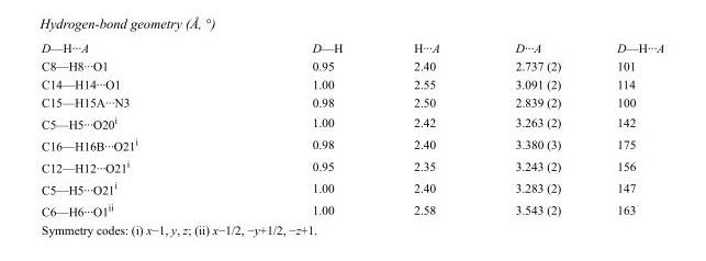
<table><tbody><tr><td>D—H···A</td><td>D—H</td><td>H···A</td><td>D···A</td><td>D—H···A</td></tr><tr><td>C8—H8···O1</td><td>0.95</td><td>2.40</td><td>2.737 (2)</td><td>101</td></tr><tr><td>C14—H14···O1</td><td>1.00</td><td>2.55</td><td>3.091 (2)</td><td>114</td></tr><tr><td>C15—H15A···N3</td><td>0.98</td><td>2.50</td><td>2.839 (2)</td><td>100</td></tr><tr><td>C5—H5···O20<sup>i</sup></td><td>1.00</td><td>2.42</td><td>3.263 (2)</td><td>142</td></tr><tr><td>C16—H16B···O21<sup>i</sup></td><td>0.98</td><td>2.40</td><td>3.380 (3)</td><td>175</td></tr><tr><td>C12—H12···O21<sup>i</sup></td><td>0.95</td><td>2.35</td><td>3.243 (2)</td><td>156</td></tr><tr><td>C5—H5···O21<sup>i</sup></td><td>1.00</td><td>2.40</td><td>3.283 (2)</td><td>147</td></tr><tr><td>C6—H6···O1<sup>ii</sup></td><td>1.00</td><td>2.58</td><td>3.543 (2)</td><td>163</td></tr></tbody></table>